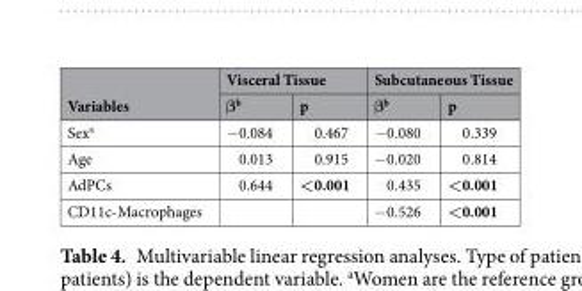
<table><thead><tr><td rowspan="2">Variables</td><td colspan="2">Visceral Tissue</td><td colspan="2">Subcutaneous Tissue</td></tr><tr><td>β<sup>b</sup></td><td>p</td><td>β<sup>b</sup></td><td>p</td></tr></thead><tbody><tr><td>Sex<sup>a</sup></td><td>−0.084</td><td>0.467</td><td>−0.080</td><td>0.339</td></tr><tr><td>Age</td><td>0.013</td><td>0.915</td><td>−0.020</td><td>0.814</td></tr><tr><td>AdPCs</td><td>0.644</td><td>&lt;0.001</td><td>0.435</td><td>&lt;0.001</td></tr><tr><td>CD11c-Macrophages</td><td></td><td></td><td>−0.526</td><td>&lt;0.001</td></tr></tbody></table>